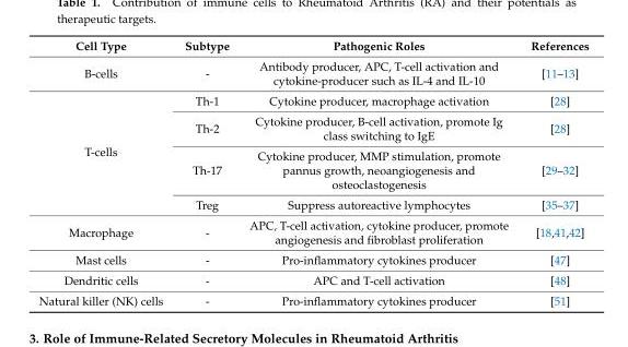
<table><thead><tr><td>Cell Type</td><td>Subtype</td><td>Pathogenic Roles</td><td>References</td></tr></thead><tbody><tr><td>B-cells</td><td>-</td><td>Antibody producer, APC, T-cell activation and cytokine-producer such as IL-4 and IL-10</td><td>[11–13]</td></tr><tr><td rowspan="4">T-cells</td><td>Th-1</td><td>Cytokine producer, macrophage activation</td><td>[28]</td></tr><tr><td>Th-2</td><td>Cytokine producer, B-cell activation, promote Ig class switching to IgE</td><td>[28]</td></tr><tr><td>Th-17</td><td>Cytokine producer, MMP stimulation, promote pannus growth, neoangiogenesis and osteoclastogenesis</td><td>[29–32]</td></tr><tr><td>Treg</td><td>Suppress autoreactive lymphocytes</td><td>[35–37]</td></tr><tr><td>Macrophage</td><td>-</td><td>APC, T-cell activation, cytokine producer, promote angiogenesis and fibroblast proliferation</td><td>[18,41,42]</td></tr><tr><td>Mast cells</td><td>-</td><td>Pro-inflammatory cytokines producer</td><td>[47]</td></tr><tr><td>Dendritic cells</td><td>-</td><td>APC and T-cell activation</td><td>[48]</td></tr><tr><td>Natural killer (NK) cells</td><td>-</td><td>Pro-inflammatory cytokines producer</td><td>[51]</td></tr></tbody></table>